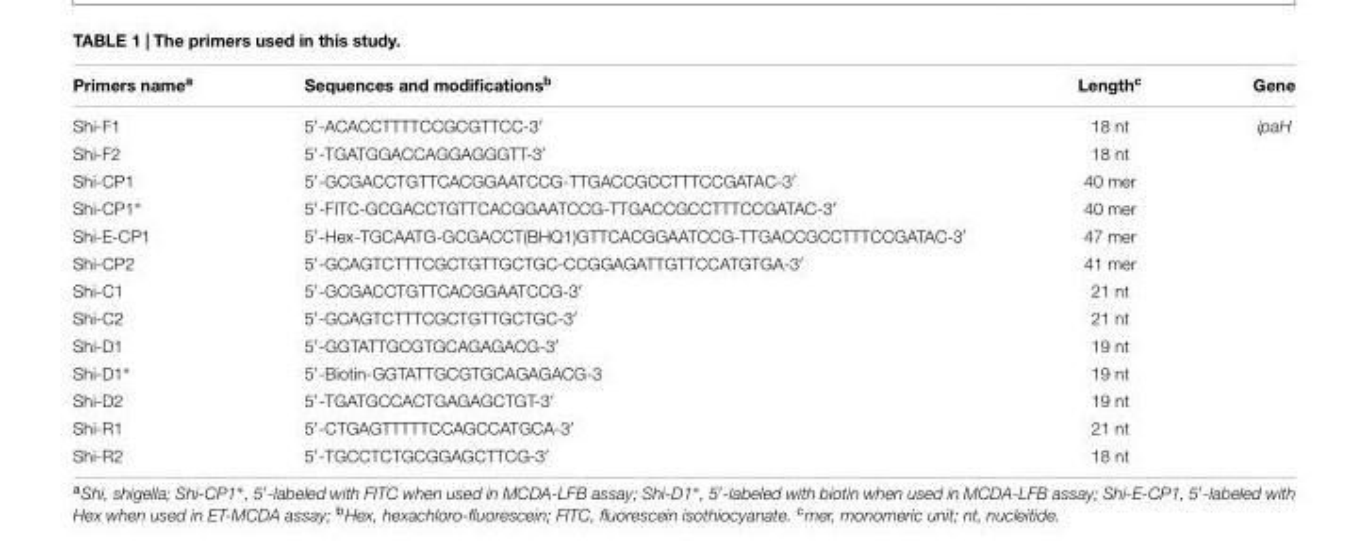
<table><thead><tr><td>Primers name<sup>a</sup></td><td>Sequences and modifications<sup>b</sup></td><td>Length<sup>c</sup></td><td>Gene</td></tr></thead><tbody><tr><td>Shi-F1</td><td>5′-ACACCTTTTCCGCGTTCC-3′</td><td>18 nt</td><td>ipaH</td></tr><tr><td>Shi-F2</td><td>5′-TGATGGACCAGGAGGGTT-3′</td><td>18 nt</td><td></td></tr><tr><td>Shi-CP1</td><td>5′-GCGACCTGTTCACGGAATCCG-TTGACCGCCTTTCCGATAC-3′</td><td>40 mer</td><td></td></tr><tr><td>Shi-CP1∗</td><td>5′-FITC-GCGACCTGTTCACGGAATCCG-TTGACCGCCTTTCCGATAC-3′</td><td>40 mer</td><td></td></tr><tr><td>Shi-E-CP1</td><td>5′-Hex-TGCAATG-GCGACCT(BHQ1)GTTCACGGAATCCG-TTGACCGCCTTTCCGATAC-3′</td><td>47 mer</td><td></td></tr><tr><td>Shi-CP2</td><td>5′-GCAGTCTTTCGCTGTTGCTGC-CCGGAGATTGTTCCATGTGA-3′</td><td>41 mer</td><td></td></tr><tr><td>Shi-C1</td><td>5′-GCGACCTGTTCACGGAATCCG-3′</td><td>21 nt</td><td></td></tr><tr><td>Shi-C2</td><td>5′-GCAGTCTTTCGCTGTTGCTGC-3′</td><td>21 nt</td><td></td></tr><tr><td>Shi-D1</td><td>5′-GGTATTGCGTGCAGAGACG-3′</td><td>19 nt</td><td></td></tr><tr><td>Shi-D1∗</td><td>5′-Biotin-GGTATTGCGTGCAGAGACG-3</td><td>19 nt</td><td></td></tr><tr><td>Shi-D2</td><td>5′-TGATGCCACTGAGAGCTGT-3′</td><td>19 nt</td><td></td></tr><tr><td>Shi-R1</td><td>5′-CTGAGTTTTTCCAGCCATGCA-3′</td><td>21 nt</td><td></td></tr><tr><td>Shi-R2</td><td>5′-TGCCTCTGCGGAGCTTCG-3′</td><td>18 nt</td><td></td></tr></tbody></table>